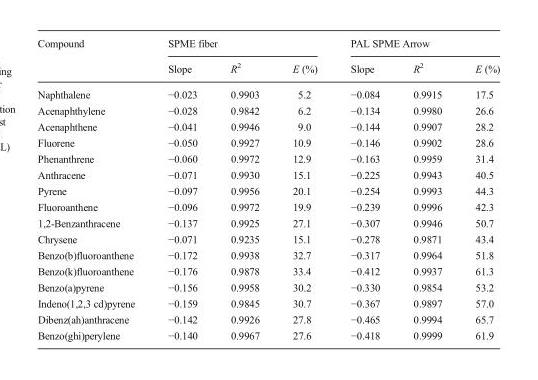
<table><thead><tr><td rowspan="2">Compound</td><td colspan="3">SPME fiber</td><td colspan="3">PAL SPME Arrow</td></tr><tr><td>Slope</td><td>R<sup>2</sup></td><td>E (%)</td><td>Slope</td><td>R<sup>2</sup></td><td>E (%)</td></tr></thead><tbody><tr><td>Naphthalene</td><td>−0.023</td><td>0.9903</td><td>5.2</td><td>−0.084</td><td>0.9915</td><td>17.5</td></tr><tr><td>Acenaphthylene</td><td>−0.028</td><td>0.9842</td><td>6.2</td><td>−0.134</td><td>0.9980</td><td>26.6</td></tr><tr><td>Acenaphthene</td><td>−0.041</td><td>0.9946</td><td>9.0</td><td>−0.144</td><td>0.9907</td><td>28.2</td></tr><tr><td>Fluorene</td><td>−0.050</td><td>0.9927</td><td>10.9</td><td>−0.146</td><td>0.9902</td><td>28.6</td></tr><tr><td>Phenanthrene</td><td>−0.060</td><td>0.9972</td><td>12.9</td><td>−0.163</td><td>0.9959</td><td>31.4</td></tr><tr><td>Anthracene</td><td>−0.071</td><td>0.9930</td><td>15.1</td><td>−0.225</td><td>0.9943</td><td>40.5</td></tr><tr><td>Pyrene</td><td>−0.097</td><td>0.9956</td><td>20.1</td><td>−0.254</td><td>0.9993</td><td>44.3</td></tr><tr><td>Fluoroanthene</td><td>−0.096</td><td>0.9972</td><td>19.9</td><td>−0.239</td><td>0.9996</td><td>42.3</td></tr><tr><td>1,2-Benzanthracene</td><td>−0.137</td><td>0.9925</td><td>27.1</td><td>−0.307</td><td>0.9946</td><td>50.7</td></tr><tr><td>Chrysene</td><td>−0.071</td><td>0.9235</td><td>15.1</td><td>−0.278</td><td>0.9871</td><td>43.4</td></tr><tr><td>Benzo(b)fluoroanthene</td><td>−0.172</td><td>0.9938</td><td>32.7</td><td>−0.317</td><td>0.9964</td><td>51.8</td></tr><tr><td>Benzo(k)fluoroanthene</td><td>−0.176</td><td>0.9878</td><td>33.4</td><td>−0.412</td><td>0.9937</td><td>61.3</td></tr><tr><td>Benzo(a)pyrene</td><td>−0.156</td><td>0.9958</td><td>30.2</td><td>−0.330</td><td>0.9854</td><td>53.2</td></tr><tr><td>Indeno(1,2,3 cd)pyrene</td><td>−0.159</td><td>0.9845</td><td>30.7</td><td>−0.367</td><td>0.9897</td><td>57.0</td></tr><tr><td>Dibenz(ah)anthracene</td><td>−0.142</td><td>0.9926</td><td>27.8</td><td>−0.465</td><td>0.9994</td><td>65.7</td></tr><tr><td>Benzo(ghi)perylene</td><td>−0.140</td><td>0.9967</td><td>27.6</td><td>−0.418</td><td>0.9999</td><td>61.9</td></tr></tbody></table>